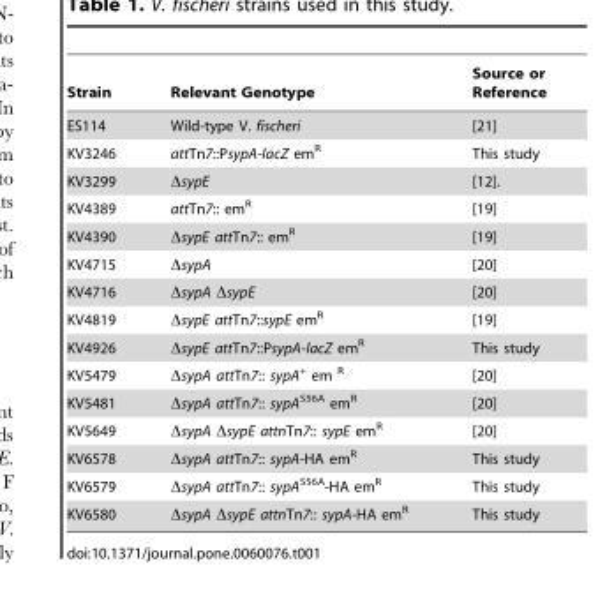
<table><thead><tr><td>Strain</td><td>Relevant Genotype</td><td>Source or Reference</td></tr></thead><tbody><tr><td>ES114</td><td>Wild-type V. fischeri</td><td>[21]</td></tr><tr><td>KV3246</td><td>attTn7::PsypA-lacZ em<sup>R</sup></td><td>This study</td></tr><tr><td>KV3299</td><td>ΔsypE</td><td>[12].</td></tr><tr><td>KV4389</td><td>attTn7:: em<sup>R</sup></td><td>[19]</td></tr><tr><td>KV4390</td><td>ΔsypE attTn7:: em<sup>R</sup></td><td>[19]</td></tr><tr><td>KV4715</td><td>ΔsypA</td><td>[20]</td></tr><tr><td>KV4716</td><td>ΔsypA ΔsypE</td><td>[20]</td></tr><tr><td>KV4819</td><td>ΔsypE attTn7::sypE em<sup>R</sup></td><td>[19]</td></tr><tr><td>KV4926</td><td>ΔsypE attTn7::PsypA-lacZ em<sup>R</sup></td><td>This study</td></tr><tr><td>KV5479</td><td>ΔsypA attTn7:: sypA<sup>+</sup> em <sup>R</sup></td><td>[20]</td></tr><tr><td>KV5481</td><td>ΔsypA attTn7:: sypA<sup>S56A</sup> em<sup>R</sup></td><td>[20]</td></tr><tr><td>KV5649</td><td>ΔsypA ΔsypE attnTn7:: sypE em<sup>R</sup></td><td>[20]</td></tr><tr><td>KV6578</td><td>ΔsypA attTn7:: sypA-HA em<sup>R</sup></td><td>This study</td></tr><tr><td>KV6579</td><td>ΔsypA attTn7:: sypA<sup>S56A</sup>-HA em<sup>R</sup></td><td>This study</td></tr><tr><td>KV6580</td><td>ΔsypA ΔsypE attnTn7:: sypA-HA em<sup>R</sup></td><td>This study</td></tr></tbody></table>